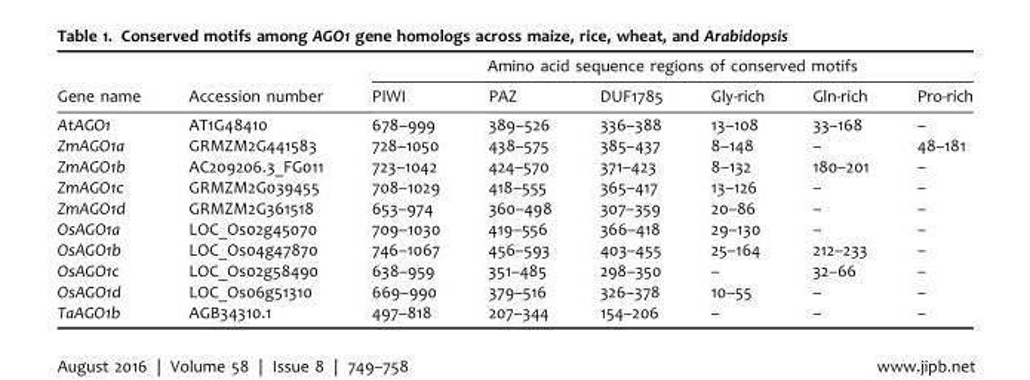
<table><thead><tr><td rowspan="2">Gene name</td><td rowspan="2">Accession number</td><td colspan="6">Amino acid sequence regions of conserved motifs</td></tr><tr><td>PIWI</td><td>PAZ</td><td>DUF1785</td><td>Gly-rich</td><td>Gln-rich</td><td>Pro-rich</td></tr></thead><tbody><tr><td>AtAGO1</td><td>AT1G48410</td><td>678–999</td><td>389–526</td><td>336–388</td><td>13–108</td><td>33–168</td><td>–</td></tr><tr><td>ZmAGO1a</td><td>GRMZM2G441583</td><td>728–1050</td><td>438–575</td><td>385–437</td><td>8–148</td><td>–</td><td>48–181</td></tr><tr><td>ZmAGO1b</td><td>AC209206.3_FG011</td><td>723–1042</td><td>424–570</td><td>371–423</td><td>8–132</td><td>180–201</td><td>–</td></tr><tr><td>ZmAGO1c</td><td>GRMZM2G039455</td><td>708–1029</td><td>418–555</td><td>365–417</td><td>13–126</td><td>–</td><td>–</td></tr><tr><td>ZmAGO1d</td><td>GRMZM2G361518</td><td>653–974</td><td>360–498</td><td>307–359</td><td>20–86</td><td>–</td><td>–</td></tr><tr><td>OsAGO1a</td><td>LOC_Os02g45070</td><td>709–1030</td><td>419–556</td><td>366–418</td><td>29–130</td><td>–</td><td>–</td></tr><tr><td>OsAGO1b</td><td>LOC_Os04g47870</td><td>746–1067</td><td>456–593</td><td>403–455</td><td>25–164</td><td>212–233</td><td>–</td></tr><tr><td>OsAGO1c</td><td>LOC_Os02g58490</td><td>638–959</td><td>351–485</td><td>298–350</td><td>–</td><td>32–66</td><td>–</td></tr><tr><td>OsAGO1d</td><td>LOC_Os06g51310</td><td>669–990</td><td>379–516</td><td>326–378</td><td>10–55</td><td>–</td><td>–</td></tr><tr><td>TaAGO1b</td><td>AGB34310.1</td><td>497–818</td><td>207–344</td><td>154–206</td><td>–</td><td>–</td><td>–</td></tr></tbody></table>